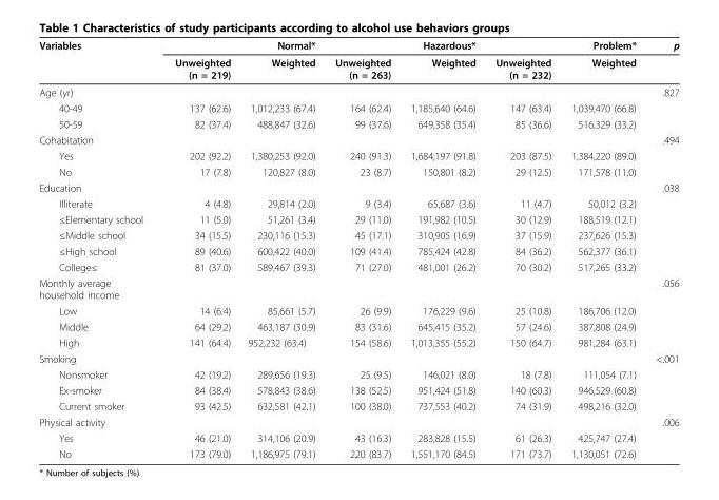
<table><thead><tr><td rowspan="2">Variables</td><td colspan="2">Normal*</td><td colspan="2">Hazardous*</td><td colspan="2">Problem*</td><td rowspan="2">p</td></tr><tr><td>Unweighted (n = 219)</td><td>Weighted</td><td>Unweighted (n = 263)</td><td>Weighted</td><td>Unweighted (n = 232)</td><td>Weighted</td></tr></thead><tbody><tr><td>Age (yr)</td><td></td><td></td><td></td><td></td><td></td><td></td><td>.827</td></tr><tr><td>40-49</td><td>137 (62.6)</td><td>1,012,233 (67.4)</td><td>164 (62.4)</td><td>1,185,640 (64.6)</td><td>147 (63.4)</td><td>1,039,470 (66.8)</td><td></td></tr><tr><td>50-59</td><td>82 (37.4)</td><td>488,847 (32.6)</td><td>99 (37.6)</td><td>649,358 (35.4)</td><td>85 (36.6)</td><td>516,329 (33.2)</td><td></td></tr><tr><td>Cohabitation</td><td></td><td></td><td></td><td></td><td></td><td></td><td>.494</td></tr><tr><td>Yes</td><td>202 (92.2)</td><td>1,380,253 (92.0)</td><td>240 (91.3)</td><td>1,684,197 (91.8)</td><td>203 (87.5)</td><td>1,384,220 (89.0)</td><td></td></tr><tr><td>No</td><td>17 (7.8)</td><td>120,827 (8.0)</td><td>23 (8.7)</td><td>150,801 (8.2)</td><td>29 (12.5)</td><td>171,578 (11.0)</td><td></td></tr><tr><td>Education</td><td></td><td></td><td></td><td></td><td></td><td></td><td>.038</td></tr><tr><td>Illiterate</td><td>4 (4.8)</td><td>29,814 (2.0)</td><td>9 (3.4)</td><td>65,687 (3.6)</td><td>11 (4.7)</td><td>50,012 (3.2)</td><td></td></tr><tr><td>≤Elementary school</td><td>11 (5.0)</td><td>51,261 (3.4)</td><td>29 (11.0)</td><td>191,982 (10.5)</td><td>30 (12.9)</td><td>188,519 (12.1)</td><td></td></tr><tr><td>≤Middle school</td><td>34 (15.5)</td><td>230,116 (15.3)</td><td>45 (17.1)</td><td>310,905 (16.9)</td><td>37 (15.9)</td><td>237,626 (15.3)</td><td></td></tr><tr><td>≤High school</td><td>89 (40.6)</td><td>600,422 (40.0)</td><td>109 (41.4)</td><td>785,424 (42.8)</td><td>84 (36.2)</td><td>562,377 (36.1)</td><td></td></tr><tr><td>College≤</td><td>81 (37.0)</td><td>589,467 (39.3)</td><td>71 (27.0)</td><td>481,001 (26.2)</td><td>70 (30.2)</td><td>517,265 (33.2)</td><td></td></tr><tr><td>Monthly average household income</td><td></td><td></td><td></td><td></td><td></td><td></td><td>.056</td></tr><tr><td>Low</td><td>14 (6.4)</td><td>85,661 (5.7)</td><td>26 (9.9)</td><td>176,229 (9.6)</td><td>25 (10.8)</td><td>186,706 (12.0)</td><td></td></tr><tr><td>Middle</td><td>64 (29.2)</td><td>463,187 (30.9)</td><td>83 (31.6)</td><td>645,415 (35.2)</td><td>57 (24.6)</td><td>387,808 (24.9)</td><td></td></tr><tr><td>High</td><td>141 (64.4)</td><td>952,232 (63.4)</td><td>154 (58.6)</td><td>1,013,355 (55.2)</td><td>150 (64.7)</td><td>981,284 (63.1)</td><td></td></tr><tr><td>Smoking</td><td></td><td></td><td></td><td></td><td></td><td></td><td>&lt;.001</td></tr><tr><td>Nonsmoker</td><td>42 (19.2)</td><td>289,656 (19.3)</td><td>25 (9.5)</td><td>146,021 (8.0)</td><td>18 (7.8)</td><td>111,054 (7.1)</td><td></td></tr><tr><td>Ex-smoker</td><td>84 (38.4)</td><td>578,843 (38.6)</td><td>138 (52.5)</td><td>951,424 (51.8)</td><td>140 (60.3)</td><td>946,529 (60.8)</td><td></td></tr><tr><td>Current smoker</td><td>93 (42.5)</td><td>632,581 (42.1)</td><td>100 (38.0)</td><td>737,553 (40.2)</td><td>74 (31.9)</td><td>498,216 (32.0)</td><td></td></tr><tr><td>Physical activity</td><td></td><td></td><td></td><td></td><td></td><td></td><td>.006</td></tr><tr><td>Yes</td><td>46 (21.0)</td><td>314,106 (20.9)</td><td>43 (16.3)</td><td>283,828 (15.5)</td><td>61 (26.3)</td><td>425,747 (27.4)</td><td></td></tr><tr><td>No</td><td>173 (79.0)</td><td>1,186,975 (79.1)</td><td>220 (83.7)</td><td>1,551,170 (84.5)</td><td>171 (73.7)</td><td>1,130,051 (72.6)</td><td></td></tr></tbody></table>